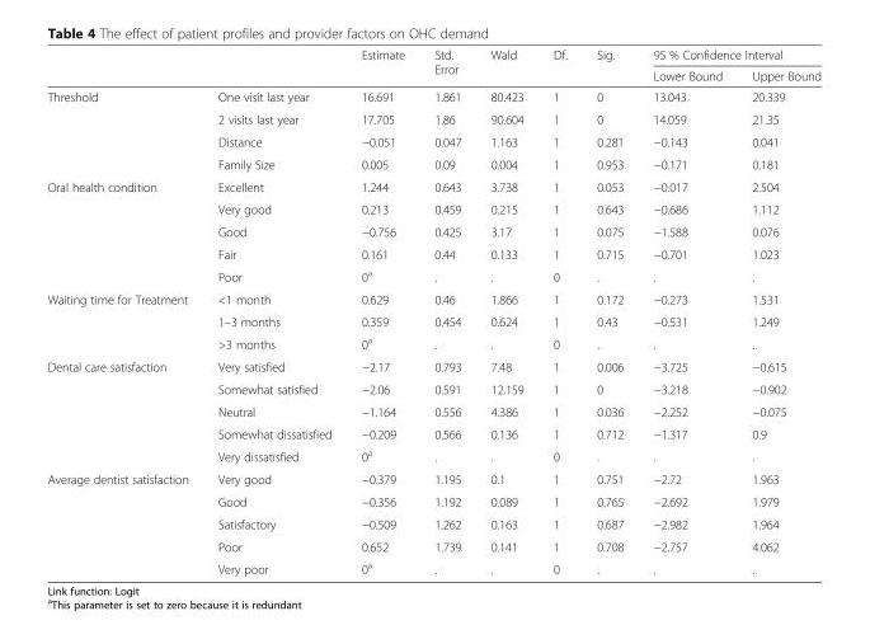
<table><thead><tr><td rowspan="2"></td><td rowspan="2"></td><td rowspan="2">Estimate</td><td rowspan="2">Std. Error</td><td rowspan="2">Wald</td><td rowspan="2">Df.</td><td rowspan="2">Sig.</td><td colspan="2">95 % Confidence Interval</td></tr><tr><td>Lower Bound</td><td>Upper Bound</td></tr></thead><tbody><tr><td rowspan="4">Threshold</td><td>One visit last year</td><td>16.691</td><td>1.861</td><td>80.423</td><td>1</td><td>0</td><td>13.043</td><td>20.339</td></tr><tr><td>2 visits last year</td><td>17.705</td><td>1.86</td><td>90.604</td><td>1</td><td>0</td><td>14.059</td><td>21.35</td></tr><tr><td>Distance</td><td>−0.051</td><td>0.047</td><td>1.163</td><td>1</td><td>0.281</td><td>−0.143</td><td>0.041</td></tr><tr><td>Family Size</td><td>0.005</td><td>0.09</td><td>0.004</td><td>1</td><td>0.953</td><td>−0.171</td><td>0.181</td></tr><tr><td rowspan="5">Oral health condition</td><td>Excellent</td><td>1.244</td><td>0.643</td><td>3.738</td><td>1</td><td>0.053</td><td>−0.017</td><td>2.504</td></tr><tr><td>Very good</td><td>0.213</td><td>0.459</td><td>0.215</td><td>1</td><td>0.643</td><td>−0.686</td><td>1.112</td></tr><tr><td>Good</td><td>−0.756</td><td>0.425</td><td>3.17</td><td>1</td><td>0.075</td><td>−1.588</td><td>0.076</td></tr><tr><td>Fair</td><td>0.161</td><td>0.44</td><td>0.133</td><td>1</td><td>0.715</td><td>−0.701</td><td>1.023</td></tr><tr><td>Poor</td><td>0<sup>a</sup></td><td>.</td><td>.</td><td>0</td><td>.</td><td>.</td><td>.</td></tr><tr><td rowspan="3">Waiting time for Treatment</td><td>&lt;1 month</td><td>0.629</td><td>0.46</td><td>1.866</td><td>1</td><td>0.172</td><td>−0.273</td><td>1.531</td></tr><tr><td>1–3 months</td><td>0.359</td><td>0.454</td><td>0.624</td><td>1</td><td>0.43</td><td>−0.531</td><td>1.249</td></tr><tr><td>&gt;3 months</td><td>0<sup>a</sup></td><td>.</td><td>.</td><td>0</td><td>.</td><td>.</td><td>.</td></tr><tr><td rowspan="5">Dental care satisfaction</td><td>Very satisfied</td><td>−2.17</td><td>0.793</td><td>7.48</td><td>1</td><td>0.006</td><td>−3.725</td><td>−0.615</td></tr><tr><td>Somewhat satisfied</td><td>−2.06</td><td>0.591</td><td>12.159</td><td>1</td><td>0</td><td>−3.218</td><td>−0.902</td></tr><tr><td>Neutral</td><td>−1.164</td><td>0.556</td><td>4.386</td><td>1</td><td>0.036</td><td>−2.252</td><td>−0.075</td></tr><tr><td>Somewhat dissatisfied</td><td>−0.209</td><td>0.566</td><td>0.136</td><td>1</td><td>0.712</td><td>−1.317</td><td>0.9</td></tr><tr><td>Very dissatisfied</td><td>0<sup>a</sup></td><td>.</td><td>.</td><td>0</td><td>.</td><td>.</td><td>.</td></tr><tr><td rowspan="5">Average dentist satisfaction</td><td>Very good</td><td>−0.379</td><td>1.195</td><td>0.1</td><td>1</td><td>0.751</td><td>−2.72</td><td>1.963</td></tr><tr><td>Good</td><td>−0.356</td><td>1.192</td><td>0.089</td><td>1</td><td>0.765</td><td>−2.692</td><td>1.979</td></tr><tr><td>Satisfactory</td><td>−0.509</td><td>1.262</td><td>0.163</td><td>1</td><td>0.687</td><td>−2.982</td><td>1.964</td></tr><tr><td>Poor</td><td>0.652</td><td>1.739</td><td>0.141</td><td>1</td><td>0.708</td><td>−2.757</td><td>4.062</td></tr><tr><td>Very poor</td><td>0<sup>a</sup></td><td>.</td><td>.</td><td>0</td><td>.</td><td>.</td><td>.</td></tr></tbody></table>